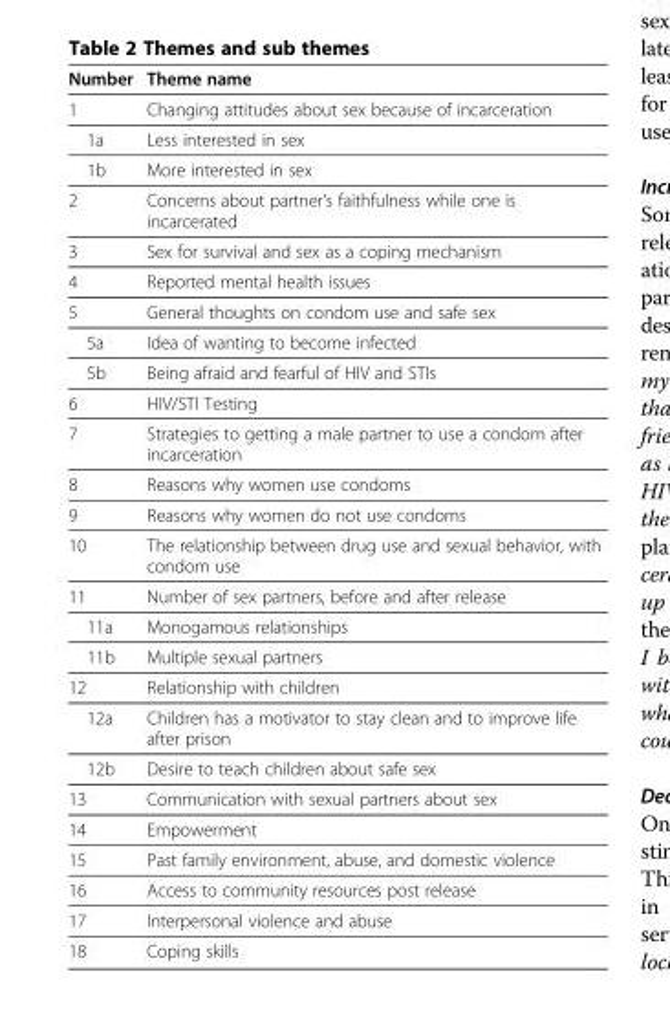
<table><thead><tr><td>Number</td><td>Theme name</td></tr></thead><tbody><tr><td>1</td><td>Changing attitudes about sex because of incarceration</td></tr><tr><td>1a</td><td>Less interested in sex</td></tr><tr><td>1b</td><td>More interested in sex</td></tr><tr><td>2</td><td>Concerns about partner’s faithfulness while one is incarcerated</td></tr><tr><td>3</td><td>Sex for survival and sex as a coping mechanism</td></tr><tr><td>4</td><td>Reported mental health issues</td></tr><tr><td>5</td><td>General thoughts on condom use and safe sex</td></tr><tr><td>5a</td><td>Idea of wanting to become infected</td></tr><tr><td>5b</td><td>Being afraid and fearful of HIV and STIs</td></tr><tr><td>6</td><td>HIV/STI Testing</td></tr><tr><td>7</td><td>Strategies to getting a male partner to use a condom after incarceration</td></tr><tr><td>8</td><td>Reasons why women use condoms</td></tr><tr><td>9</td><td>Reasons why women do not use condoms</td></tr><tr><td>10</td><td>The relationship between drug use and sexual behavior, with condom use</td></tr><tr><td>11</td><td>Number of sex partners, before and after release</td></tr><tr><td>11a</td><td>Monogamous relationships</td></tr><tr><td>11b</td><td>Multiple sexual partners</td></tr><tr><td>12</td><td>Relationship with children</td></tr><tr><td>12a</td><td>Children has a motivator to stay clean and to improve life after prison</td></tr><tr><td>12b</td><td>Desire to teach children about safe sex</td></tr><tr><td>13</td><td>Communication with sexual partners about sex</td></tr><tr><td>14</td><td>Empowerment</td></tr><tr><td>15</td><td>Past family environment, abuse, and domestic violence</td></tr><tr><td>16</td><td>Access to community resources post release</td></tr><tr><td>17</td><td>Interpersonal violence and abuse</td></tr><tr><td>18</td><td>Coping skills</td></tr></tbody></table>